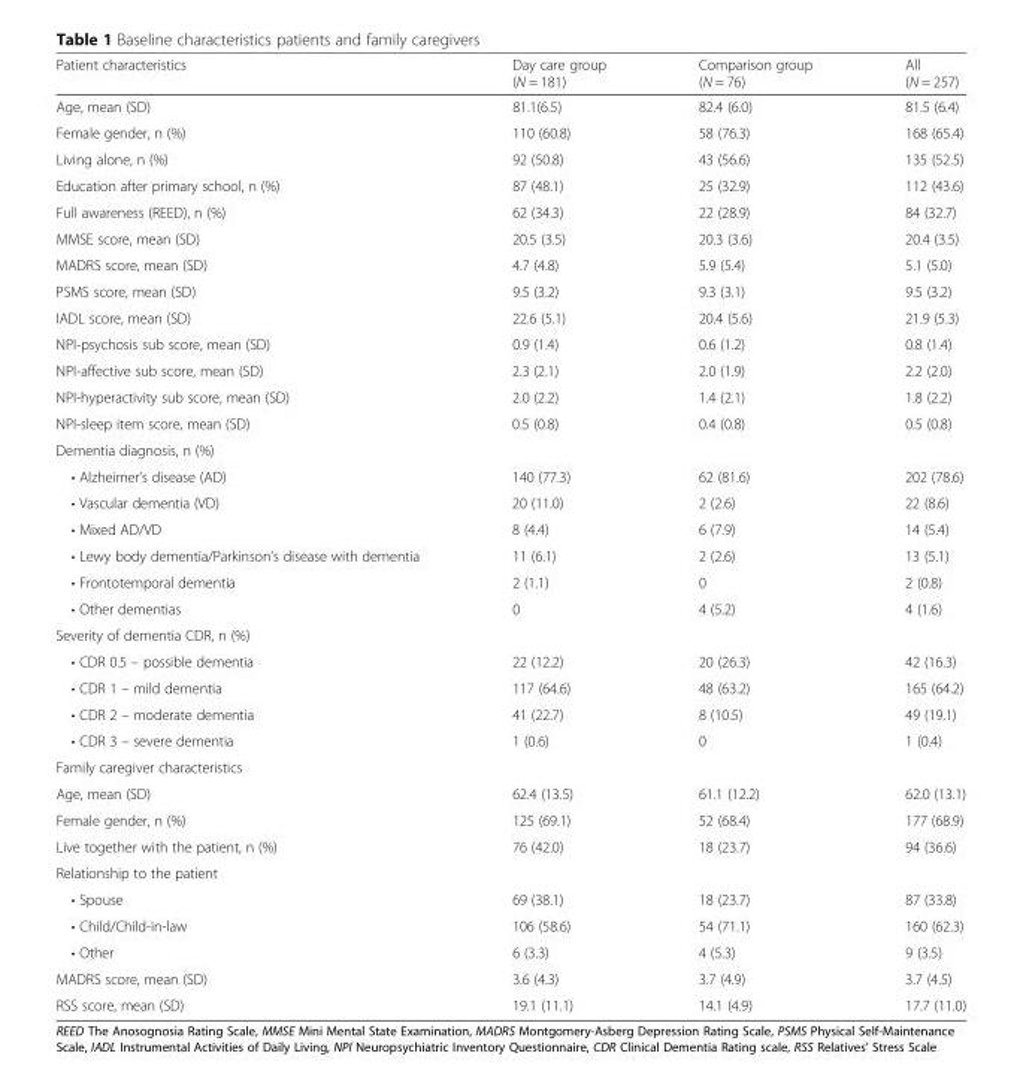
<table><thead><tr><td>Patient characteristics</td><td>Day care group (N = 181)</td><td>Comparison group (N = 76)</td><td>All (N = 257)</td></tr></thead><tbody><tr><td>Age, mean (SD)</td><td>81.1(6.5)</td><td>82.4 (6.0)</td><td>81.5 (6.4)</td></tr><tr><td>Female gender, n (%)</td><td>110 (60.8)</td><td>58 (76.3)</td><td>168 (65.4)</td></tr><tr><td>Living alone, n (%)</td><td>92 (50.8)</td><td>43 (56.6)</td><td>135 (52.5)</td></tr><tr><td>Education after primary school, n (%)</td><td>87 (48.1)</td><td>25 (32.9)</td><td>112 (43.6)</td></tr><tr><td>Full awareness (REED), n (%)</td><td>62 (34.3)</td><td>22 (28.9)</td><td>84 (32.7)</td></tr><tr><td>MMSE score, mean (SD)</td><td>20.5 (3.5)</td><td>20.3 (3.6)</td><td>20.4 (3.5)</td></tr><tr><td>MADRS score, mean (SD)</td><td>4.7 (4.8)</td><td>5.9 (5.4)</td><td>5.1 (5.0)</td></tr><tr><td>PSMS score, mean (SD)</td><td>9.5 (3.2)</td><td>9.3 (3.1)</td><td>9.5 (3.2)</td></tr><tr><td>IADL score, mean (SD)</td><td>22.6 (5.1)</td><td>20.4 (5.6)</td><td>21.9 (5.3)</td></tr><tr><td>NPI-psychosis sub score, mean (SD)</td><td>0.9 (1.4)</td><td>0.6 (1.2)</td><td>0.8 (1.4)</td></tr><tr><td>NPI-affective sub score, mean (SD)</td><td>2.3 (2.1)</td><td>2.0 (1.9)</td><td>2.2 (2.0)</td></tr><tr><td>NPI-hyperactivity sub score, mean (SD)</td><td>2.0 (2.2)</td><td>1.4 (2.1)</td><td>1.8 (2.2)</td></tr><tr><td>NPI-sleep item score, mean (SD)</td><td>0.5 (0.8)</td><td>0.4 (0.8)</td><td>0.5 (0.8)</td></tr><tr><td colspan="4">Dementia diagnosis, n (%)</td></tr><tr><td>• Alzheimer’s disease (AD)</td><td>140 (77.3)</td><td>62 (81.6)</td><td>202 (78.6)</td></tr><tr><td>• Vascular dementia (VD)</td><td>20 (11.0)</td><td>2 (2.6)</td><td>22 (8.6)</td></tr><tr><td>• Mixed AD/VD</td><td>8 (4.4)</td><td>6 (7.9)</td><td>14 (5.4)</td></tr><tr><td>• Lewy body dementia/Parkinson’s disease with dementia</td><td>11 (6.1)</td><td>2 (2.6)</td><td>13 (5.1)</td></tr><tr><td>• Frontotemporal dementia</td><td>2 (1.1)</td><td>0</td><td>2 (0.8)</td></tr><tr><td>• Other dementias</td><td>0</td><td>4 (5.2)</td><td>4 (1.6)</td></tr><tr><td colspan="4">Severity of dementia CDR, n (%)</td></tr><tr><td>• CDR 0.5 – possible dementia</td><td>22 (12.2)</td><td>20 (26.3)</td><td>42 (16.3)</td></tr><tr><td>• CDR 1 – mild dementia</td><td>117 (64.6)</td><td>48 (63.2)</td><td>165 (64.2)</td></tr><tr><td>• CDR 2 – moderate dementia</td><td>41 (22.7)</td><td>8 (10.5)</td><td>49 (19.1)</td></tr><tr><td>• CDR 3 – severe dementia</td><td>1 (0.6)</td><td>0</td><td>1 (0.4)</td></tr><tr><td colspan="4">Family caregiver characteristics</td></tr><tr><td>Age, mean (SD)</td><td>62.4 (13.5)</td><td>61.1 (12.2)</td><td>62.0 (13.1)</td></tr><tr><td>Female gender, n (%)</td><td>125 (69.1)</td><td>52 (68.4)</td><td>177 (68.9)</td></tr><tr><td>Live together with the patient, n (%)</td><td>76 (42.0)</td><td>18 (23.7)</td><td>94 (36.6)</td></tr><tr><td colspan="4">Relationship to the patient</td></tr><tr><td>• Spouse</td><td>69 (38.1)</td><td>18 (23.7)</td><td>87 (33.8)</td></tr><tr><td>• Child/Child-in-law</td><td>106 (58.6)</td><td>54 (71.1)</td><td>160 (62.3)</td></tr><tr><td>• Other</td><td>6 (3.3)</td><td>4 (5.3)</td><td>9 (3.5)</td></tr><tr><td>MADRS score, mean (SD)</td><td>3.6 (4.3)</td><td>3.7 (4.9)</td><td>3.7 (4.5)</td></tr><tr><td>RSS score, mean (SD)</td><td>19.1 (11.1)</td><td>14.1 (4.9)</td><td>17.7 (11.0)</td></tr></tbody></table>